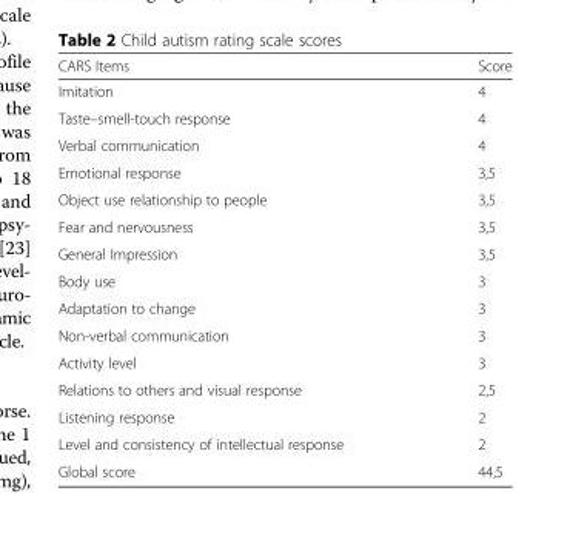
<table><thead><tr><td>CARS Items</td><td>Score</td></tr></thead><tbody><tr><td>Imitation</td><td>4</td></tr><tr><td>Taste–smell-touch response</td><td>4</td></tr><tr><td>Verbal communication</td><td>4</td></tr><tr><td>Emotional response</td><td>3,5</td></tr><tr><td>Object use relationship to people</td><td>3,5</td></tr><tr><td>Fear and nervousness</td><td>3,5</td></tr><tr><td>General Impression</td><td>3,5</td></tr><tr><td>Body use</td><td>3</td></tr><tr><td>Adaptation to change</td><td>3</td></tr><tr><td>Non-verbal communication</td><td>3</td></tr><tr><td>Activity level</td><td>3</td></tr><tr><td>Relations to others and visual response</td><td>2,5</td></tr><tr><td>Listening response</td><td>2</td></tr><tr><td>Level and consistency of intellectual response</td><td>2</td></tr><tr><td>Global score</td><td>44,5</td></tr></tbody></table>